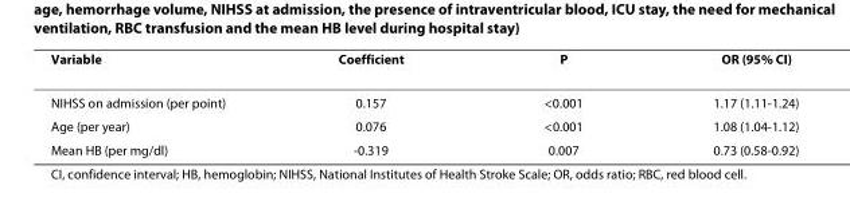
<table><thead><tr><td>Variable</td><td>Coefficient</td><td>P</td><td>OR (95% CI)</td></tr></thead><tbody><tr><td>NIHSS on admission (per point)</td><td>0.157</td><td>&lt;0.001</td><td>1.17 (1.11-1.24)</td></tr><tr><td>Age (per year)</td><td>0.076</td><td>&lt;0.001</td><td>1.08 (1.04-1.12)</td></tr><tr><td>Mean HB (per mg/dl)</td><td>-0.319</td><td>0.007</td><td>0.73 (0.58-0.92)</td></tr></tbody></table>